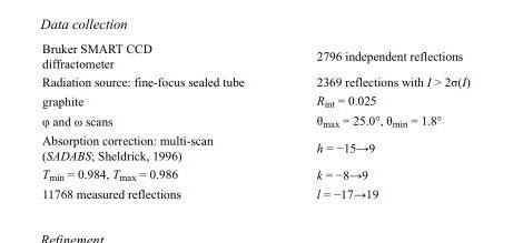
<table><tbody><tr><td>Bruker SMART CCD diffractometer</td><td>2796 independent reflections</td></tr><tr><td>Radiation source: fine-focus sealed tube</td><td>2369 reflections with I &gt; 2σ(I)</td></tr><tr><td>graphite</td><td>R<sub>int</sub> = 0.025</td></tr><tr><td>φ and ω scans</td><td>θ<sub>max</sub> = 25.0°, θ<sub>min</sub> = 1.8°</td></tr><tr><td>Absorption correction: multi-scan (SADABS; Sheldrick, 1996)</td><td>h = −15→9</td></tr><tr><td>T<sub>min</sub> = 0.984, T<sub>max</sub> = 0.986</td><td>k = −8→9</td></tr><tr><td>11768 measured reflections</td><td>l = −17→19</td></tr></tbody></table>